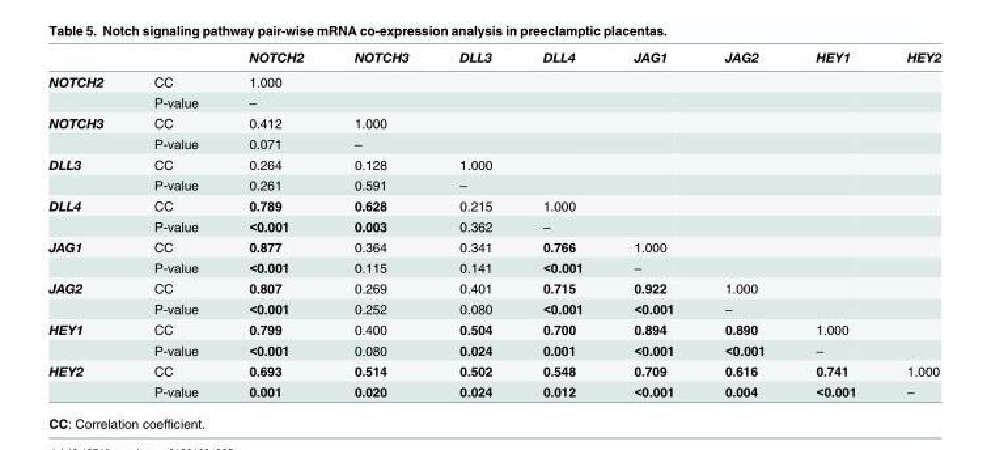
<table><thead><tr><td></td><td></td><td>NOTCH2</td><td>NOTCH3</td><td>DLL3</td><td>DLL4</td><td>JAG1</td><td>JAG2</td><td>HEY1</td><td>HEY2</td></tr></thead><tbody><tr><td rowspan="2">NOTCH2</td><td>CC</td><td>1.000</td><td></td><td></td><td></td><td></td><td></td><td></td><td></td></tr><tr><td>P-value</td><td>–</td><td></td><td></td><td></td><td></td><td></td><td></td><td></td></tr><tr><td rowspan="2">NOTCH3</td><td>CC</td><td>0.412</td><td>1.000</td><td></td><td></td><td></td><td></td><td></td><td></td></tr><tr><td>P-value</td><td>0.071</td><td>–</td><td></td><td></td><td></td><td></td><td></td><td></td></tr><tr><td rowspan="2">DLL3</td><td>CC</td><td>0.264</td><td>0.128</td><td>1.000</td><td></td><td></td><td></td><td></td><td></td></tr><tr><td>P-value</td><td>0.261</td><td>0.591</td><td>–</td><td></td><td></td><td></td><td></td><td></td></tr><tr><td rowspan="2">DLL4</td><td>CC</td><td>0.789</td><td>0.628</td><td>0.215</td><td>1.000</td><td></td><td></td><td></td><td></td></tr><tr><td>P-value</td><td>&lt;0.001</td><td>0.003</td><td>0.362</td><td>–</td><td></td><td></td><td></td><td></td></tr><tr><td rowspan="2">JAG1</td><td>CC</td><td>0.877</td><td>0.364</td><td>0.341</td><td>0.766</td><td>1.000</td><td></td><td></td><td></td></tr><tr><td>P-value</td><td>&lt;0.001</td><td>0.115</td><td>0.141</td><td>&lt;0.001</td><td>–</td><td></td><td></td><td></td></tr><tr><td rowspan="2">JAG2</td><td>CC</td><td>0.807</td><td>0.269</td><td>0.401</td><td>0.715</td><td>0.922</td><td>1.000</td><td></td><td></td></tr><tr><td>P-value</td><td>&lt;0.001</td><td>0.252</td><td>0.080</td><td>&lt;0.001</td><td>&lt;0.001</td><td>–</td><td></td><td></td></tr><tr><td rowspan="2">HEY1</td><td>CC</td><td>0.799</td><td>0.400</td><td>0.504</td><td>0.700</td><td>0.894</td><td>0.890</td><td>1.000</td><td></td></tr><tr><td>P-value</td><td>&lt;0.001</td><td>0.080</td><td>0.024</td><td>0.001</td><td>&lt;0.001</td><td>&lt;0.001</td><td>–</td><td></td></tr><tr><td rowspan="2">HEY2</td><td>CC</td><td>0.693</td><td>0.514</td><td>0.502</td><td>0.548</td><td>0.709</td><td>0.616</td><td>0.741</td><td>1.000</td></tr><tr><td>P-value</td><td>0.001</td><td>0.020</td><td>0.024</td><td>0.012</td><td>&lt;0.001</td><td>0.004</td><td>&lt;0.001</td><td>–</td></tr></tbody></table>